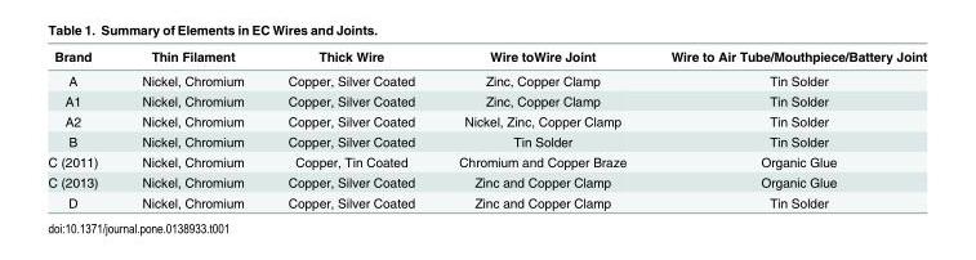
<table><thead><tr><td>Brand</td><td>Thin Filament</td><td>Thick Wire</td><td>Wire toWire Joint</td><td>Wire to Air Tube/Mouthpiece/Battery Joint</td></tr></thead><tbody><tr><td>A</td><td>Nickel, Chromium</td><td>Copper, Silver Coated</td><td>Zinc, Copper Clamp</td><td>Tin Solder</td></tr><tr><td>A1</td><td>Nickel, Chromium</td><td>Copper, Silver Coated</td><td>Zinc, Copper Clamp</td><td>Tin Solder</td></tr><tr><td>A2</td><td>Nickel, Chromium</td><td>Copper, Silver Coated</td><td>Nickel, Zinc, Copper Clamp</td><td>Tin Solder</td></tr><tr><td>B</td><td>Nickel, Chromium</td><td>Copper, Silver Coated</td><td>Tin Solder</td><td>Tin Solder</td></tr><tr><td>C (2011)</td><td>Nickel, Chromium</td><td>Copper, Tin Coated</td><td>Chromium and Copper Braze</td><td>Organic Glue</td></tr><tr><td>C (2013)</td><td>Nickel, Chromium</td><td>Copper, Silver Coated</td><td>Zinc and Copper Clamp</td><td>Organic Glue</td></tr><tr><td>D</td><td>Nickel, Chromium</td><td>Copper, Silver Coated</td><td>Zinc and Copper Clamp</td><td>Tin Solder</td></tr></tbody></table>